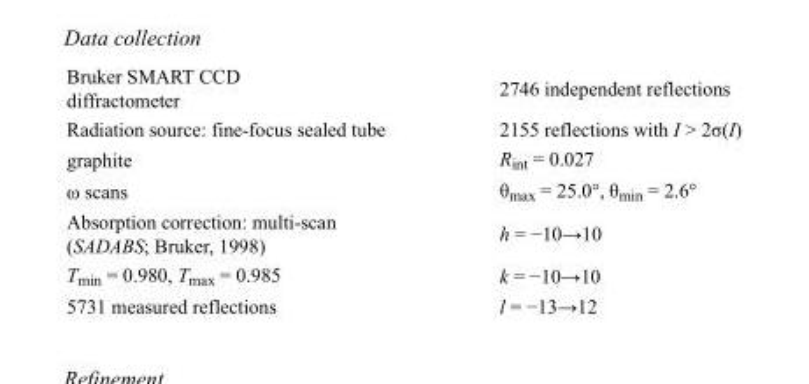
<table><tbody><tr><td>Bruker SMART CCD diffractometer</td><td>2746 independent reflections</td></tr><tr><td>Radiation source: fine-focus sealed tube</td><td>2155 reflections with I &gt; 2σ(I)</td></tr><tr><td>graphite</td><td>R<sub>int</sub> = 0.027</td></tr><tr><td>ω scans</td><td>θ<sub>max</sub> = 25.0°, θ<sub>min</sub> = 2.6°</td></tr><tr><td>Absorption correction: multi-scan (SADABS; Bruker, 1998)</td><td>h = −10→10</td></tr><tr><td>T<sub>min</sub> = 0.980, T<sub>max</sub> = 0.985</td><td>k = −10→10</td></tr><tr><td>5731 measured reflections</td><td>l = −13→12</td></tr></tbody></table>